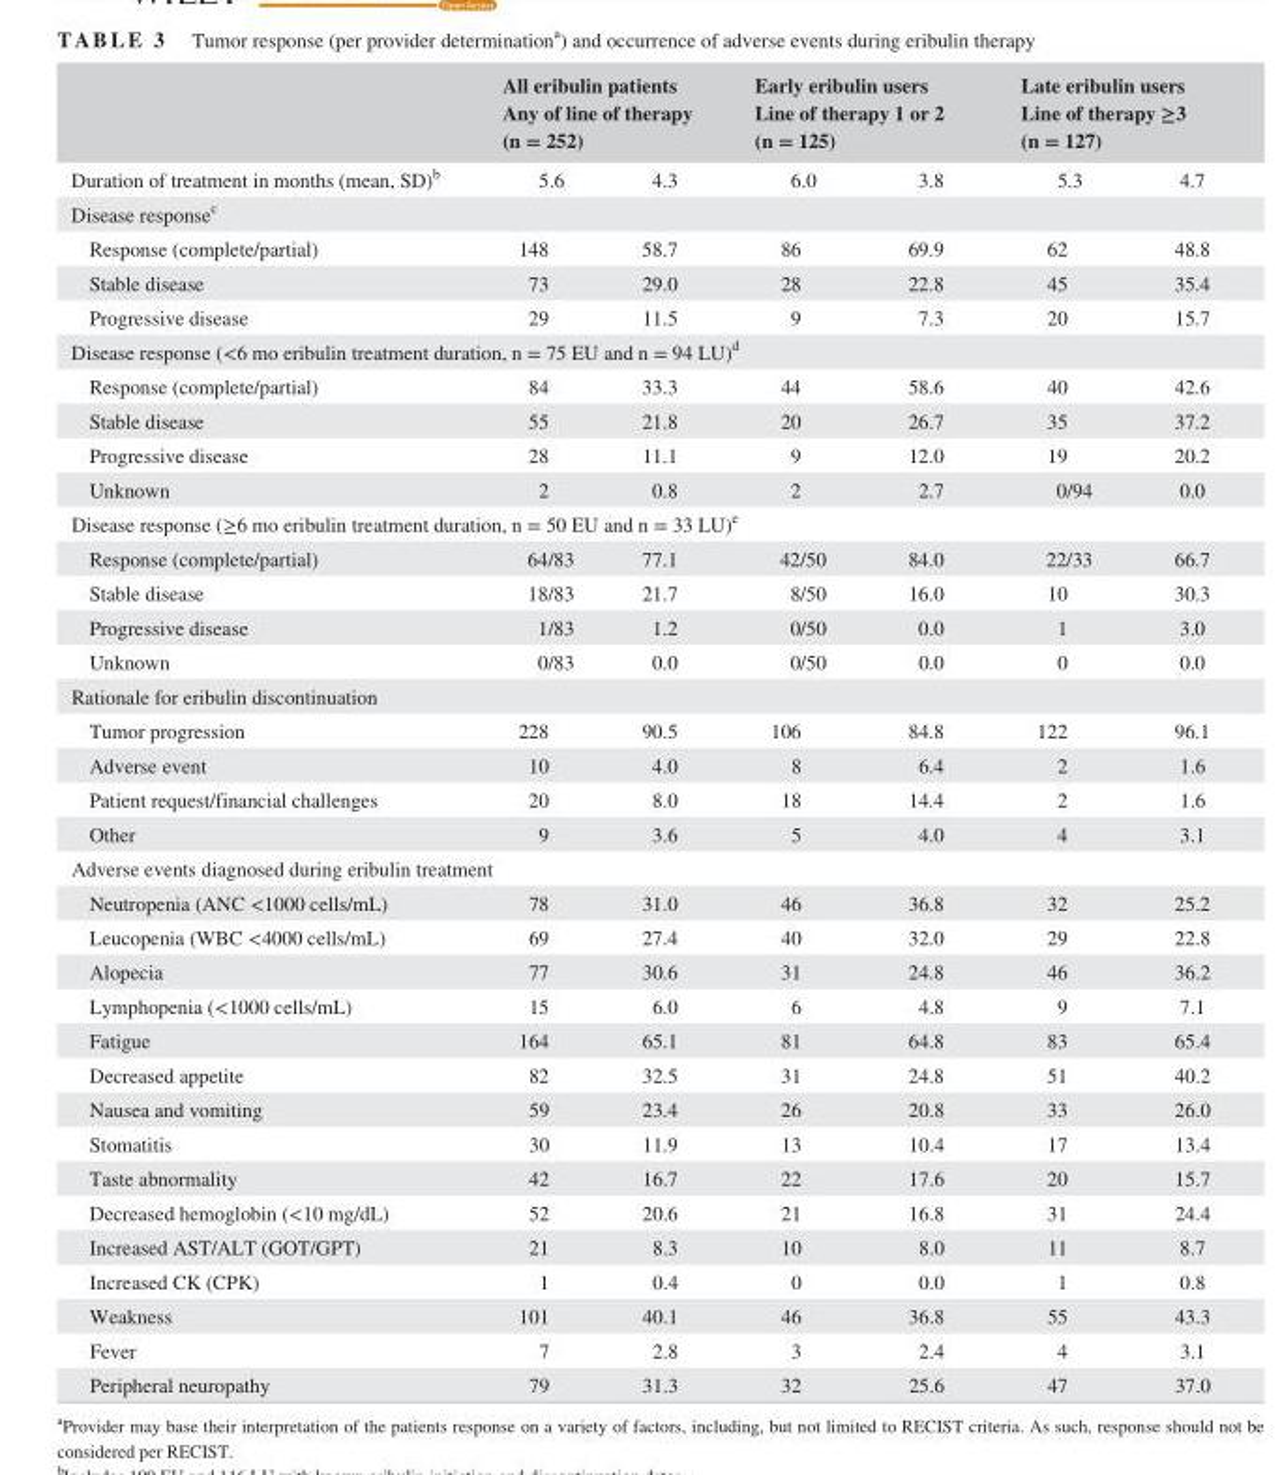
<table><thead><tr><td rowspan="2">Duration of treatment in months (mean, SD)b</td><td colspan="2">All eribulin patients Any of line of therapy (n = 252)</td><td colspan="2">Early eribulin users Line of therapy 1 or 2 (n = 125)</td><td colspan="2">Late eribulin users Line of therapy ≥3 (n = 127)</td></tr><tr><td>5.6</td><td>4.3</td><td>6.0</td><td>3.8</td><td>5.3</td><td>4.7</td></tr></thead><tbody><tr><td colspan="7">Disease responsec</td></tr><tr><td>Response (complete/partial)</td><td>148</td><td>58.7</td><td>86</td><td>69.9</td><td>62</td><td>48.8</td></tr><tr><td>Stable disease</td><td>73</td><td>29.0</td><td>28</td><td>22.8</td><td>45</td><td>35.4</td></tr><tr><td>Progressive disease</td><td>29</td><td>11.5</td><td>9</td><td>7.3</td><td>20</td><td>15.7</td></tr><tr><td colspan="7">Disease response (&lt;6 mo eribulin treatment duration, n = 75 EU and n = 94 LU)d</td></tr><tr><td>Response (complete/partial)</td><td>84</td><td>33.3</td><td>44</td><td>58.6</td><td>40</td><td>42.6</td></tr><tr><td>Stable disease</td><td>55</td><td>21.8</td><td>20</td><td>26.7</td><td>35</td><td>37.2</td></tr><tr><td>Progressive disease</td><td>28</td><td>11.1</td><td>9</td><td>12.0</td><td>19</td><td>20.2</td></tr><tr><td>Unknown</td><td>2</td><td>0.8</td><td>2</td><td>2.7</td><td>0/94</td><td>0.0</td></tr><tr><td colspan="7">Disease response (≥6 mo eribulin treatment duration, n = 50 EU and n = 33 LU)e</td></tr><tr><td>Response (complete/partial)</td><td>64/83</td><td>77.1</td><td>42/50</td><td>84.0</td><td>22/33</td><td>66.7</td></tr><tr><td>Stable disease</td><td>18/83</td><td>21.7</td><td>8/50</td><td>16.0</td><td>10</td><td>30.3</td></tr><tr><td>Progressive disease</td><td>1/83</td><td>1.2</td><td>0/50</td><td>0.0</td><td>1</td><td>3.0</td></tr><tr><td>Unknown</td><td>0/83</td><td>0.0</td><td>0/50</td><td>0.0</td><td>0</td><td>0.0</td></tr><tr><td colspan="7">Rationale for eribulin discontinuation</td></tr><tr><td>Tumor progression</td><td>228</td><td>90.5</td><td>106</td><td>84.8</td><td>122</td><td>96.1</td></tr><tr><td>Adverse event</td><td>10</td><td>4.0</td><td>8</td><td>6.4</td><td>2</td><td>1.6</td></tr><tr><td>Patient request/financial challenges</td><td>20</td><td>8.0</td><td>18</td><td>14.4</td><td>2</td><td>1.6</td></tr><tr><td>Other</td><td>9</td><td>3.6</td><td>5</td><td>4.0</td><td>4</td><td>3.1</td></tr><tr><td colspan="7">Adverse events diagnosed during eribulin treatment</td></tr><tr><td>Neutropenia (ANC &lt;1000 cells/mL)</td><td>78</td><td>31.0</td><td>46</td><td>36.8</td><td>32</td><td>25.2</td></tr><tr><td>Leucopenia (WBC &lt;4000 cells/mL)</td><td>69</td><td>27.4</td><td>40</td><td>32.0</td><td>29</td><td>22.8</td></tr><tr><td>Alopecia</td><td>77</td><td>30.6</td><td>31</td><td>24.8</td><td>46</td><td>36.2</td></tr><tr><td>Lymphopenia (&lt;1000 cells/mL)</td><td>15</td><td>6.0</td><td>6</td><td>4.8</td><td>9</td><td>7.1</td></tr><tr><td>Fatigue</td><td>164</td><td>65.1</td><td>81</td><td>64.8</td><td>83</td><td>65.4</td></tr><tr><td>Decreased appetite</td><td>82</td><td>32.5</td><td>31</td><td>24.8</td><td>51</td><td>40.2</td></tr><tr><td>Nausea and vomiting</td><td>59</td><td>23.4</td><td>26</td><td>20.8</td><td>33</td><td>26.0</td></tr><tr><td>Stomatitis</td><td>30</td><td>11.9</td><td>13</td><td>10.4</td><td>17</td><td>13.4</td></tr><tr><td>Taste abnormality</td><td>42</td><td>16.7</td><td>22</td><td>17.6</td><td>20</td><td>15.7</td></tr><tr><td>Decreased hemoglobin (&lt;10 mg/dL)</td><td>52</td><td>20.6</td><td>21</td><td>16.8</td><td>31</td><td>24.4</td></tr><tr><td>Increased AST/ALT (GOT/GPT)</td><td>21</td><td>8.3</td><td>10</td><td>8.0</td><td>11</td><td>8.7</td></tr><tr><td>Increased CK (CPK)</td><td>1</td><td>0.4</td><td>0</td><td>0.0</td><td>1</td><td>0.8</td></tr><tr><td>Weakness</td><td>101</td><td>40.1</td><td>46</td><td>36.8</td><td>55</td><td>43.3</td></tr><tr><td>Fever</td><td>7</td><td>2.8</td><td>3</td><td>2.4</td><td>4</td><td>3.1</td></tr><tr><td>Peripheral neuropathy</td><td>79</td><td>31.3</td><td>32</td><td>25.6</td><td>47</td><td>37.0</td></tr></tbody></table>